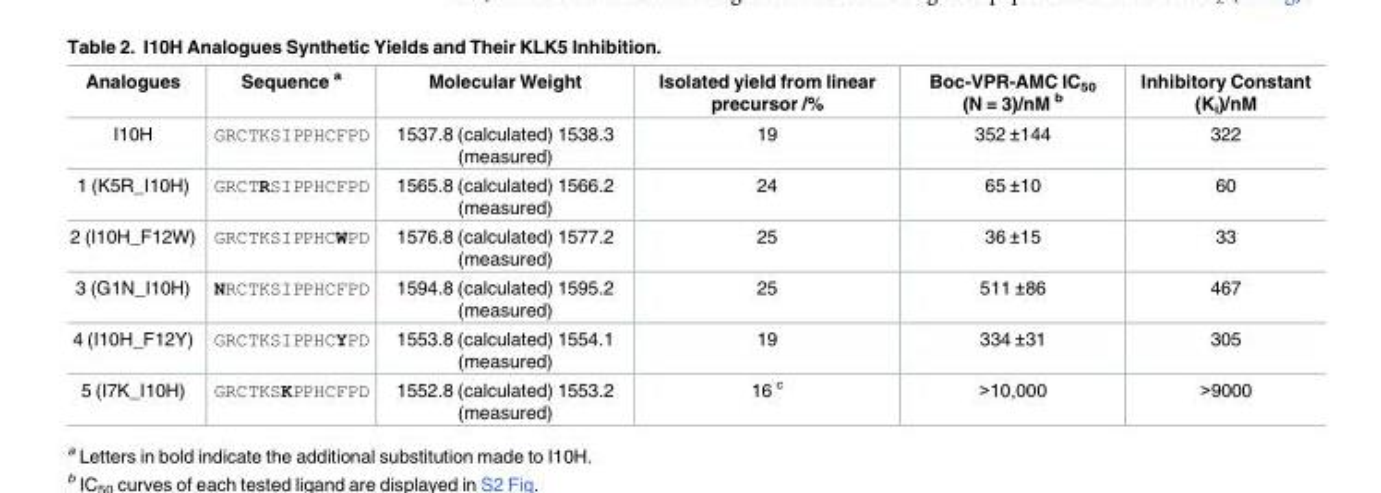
<table><thead><tr><td>Analogues</td><td>Sequence <sup>a</sup></td><td>Molecular Weight</td><td>Isolated yield from linear precursor /%</td><td>Boc-VPR-AMC IC<sub>50</sub> (N = 3)/nM <sup>b</sup></td><td>Inhibitory Constant (K<sub>i</sub>)/nM</td></tr></thead><tbody><tr><td>I10H</td><td>GRCTKSIPPHCFPD</td><td>1537.8 (calculated) 1538.3 (measured)</td><td>19</td><td>352 ±144</td><td>322</td></tr><tr><td>1 (K5R_I10H)</td><td>GRCTRSIPPHCFPD</td><td>1565.8 (calculated) 1566.2 (measured)</td><td>24</td><td>65 ±10</td><td>60</td></tr><tr><td>2 (I10H_F12W)</td><td>GRCTKSIPPHCWPD</td><td>1576.8 (calculated) 1577.2 (measured)</td><td>25</td><td>36 ±15</td><td>33</td></tr><tr><td>3 (G1N_I10H)</td><td>NRCTKSIPPHCFPD</td><td>1594.8 (calculated) 1595.2 (measured)</td><td>25</td><td>511 ±86</td><td>467</td></tr><tr><td>4 (I10H_F12Y)</td><td>GRCTKSIPPHCYPD</td><td>1553.8 (calculated) 1554.1 (measured)</td><td>19</td><td>334 ±31</td><td>305</td></tr><tr><td>5 (I7K_I10H)</td><td>GRCTKSKPPHCFPD</td><td>1552.8 (calculated) 1553.2 (measured)</td><td>16 <sup>c</sup></td><td>&gt;10,000</td><td>&gt;9000</td></tr></tbody></table>